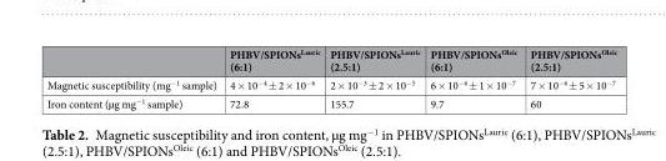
<table><thead><tr><td></td><td>PHBV/SPIONs<sup>Lauric</sup> (6:1)</td><td>PHBV/SPIONs<sup>Lauric</sup> (2.5:1)</td><td>PHBV/SPIONs<sup>Oleic</sup> (6:1)</td><td>PHBV/SPIONs<sup>Oleic</sup> (2.5:1)</td></tr></thead><tbody><tr><td>Magnetic susceptibility (mg<sup>−1</sup> sample)</td><td>4 × 10<sup>−4</sup> ± 2 × 10<sup>−6</sup></td><td>2 × 10<sup>−3</sup> ± 2 × 10<sup>−5</sup></td><td>6 × 10<sup>−6</sup> ± 1 × 10<sup>−7</sup></td><td>7 × 10<sup>−6</sup> ± 5 × 10<sup>−7</sup></td></tr><tr><td>Iron content (µg mg<sup>−1</sup> sample)</td><td>72.8</td><td>155.7</td><td>9.7</td><td>60</td></tr></tbody></table>